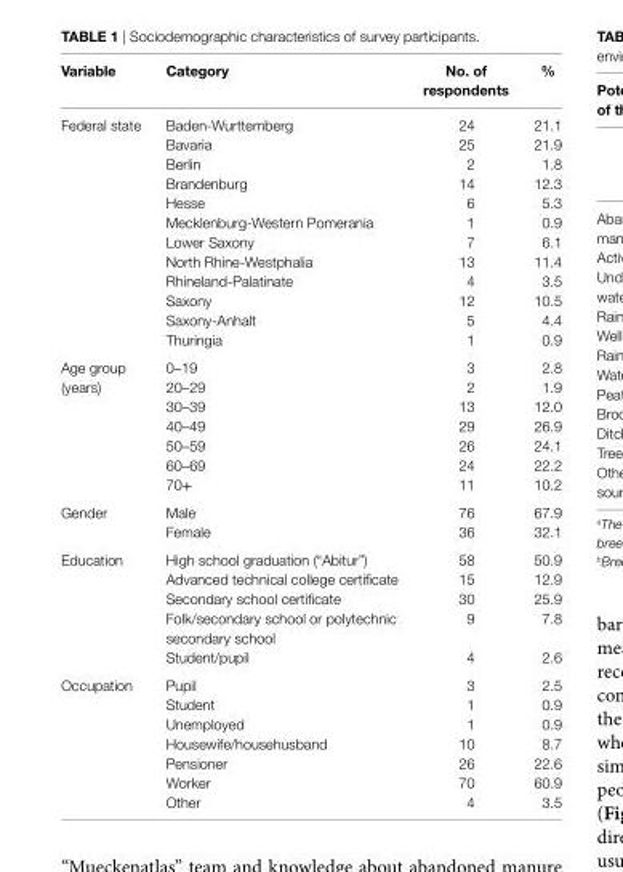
<table><thead><tr><td>Variable</td><td>category</td><td>no. of respondents</td><td>%</td></tr></thead><tbody><tr><td rowspan="12">Federal state</td><td>Baden-Wurttemberg</td><td>24</td><td>21.1</td></tr><tr><td>Bavaria</td><td>25</td><td>21.9</td></tr><tr><td>Berlin</td><td>2</td><td>1.8</td></tr><tr><td>Brandenburg</td><td>14</td><td>12.3</td></tr><tr><td>Hesse</td><td>6</td><td>5.3</td></tr><tr><td>Mecklenburg-Western Pomerania</td><td>1</td><td>0.9</td></tr><tr><td>Lower Saxony</td><td>7</td><td>6.1</td></tr><tr><td>North Rhine-Westphalia</td><td>13</td><td>11.4</td></tr><tr><td>Rhineland-Palatinate</td><td>4</td><td>3.5</td></tr><tr><td>Saxony</td><td>12</td><td>10.5</td></tr><tr><td>Saxony-Anhalt</td><td>5</td><td>4.4</td></tr><tr><td>Thuringia</td><td>1</td><td>0.9</td></tr><tr><td rowspan="7">Age group (years)</td><td>0–19</td><td>3</td><td>2.8</td></tr><tr><td>20–29</td><td>2</td><td>1.9</td></tr><tr><td>30–39</td><td>13</td><td>12.0</td></tr><tr><td>40–49</td><td>29</td><td>26.9</td></tr><tr><td>50–59</td><td>26</td><td>24.1</td></tr><tr><td>60–69</td><td>24</td><td>22.2</td></tr><tr><td>70+</td><td>11</td><td>10.2</td></tr><tr><td rowspan="2">Gender</td><td>Male</td><td>76</td><td>67.9</td></tr><tr><td>Female</td><td>36</td><td>32.1</td></tr><tr><td rowspan="5">Education</td><td>High school graduation (“Abitur”)</td><td>58</td><td>50.9</td></tr><tr><td>Advanced technical college certificate</td><td>15</td><td>12.9</td></tr><tr><td>Secondary school certificate</td><td>30</td><td>25.9</td></tr><tr><td>Folk/secondary school or polytechnic secondary school</td><td>9</td><td>7.8</td></tr><tr><td>Student/pupil</td><td>4</td><td>2.6</td></tr><tr><td rowspan="7">Occupation</td><td>Pupil</td><td>3</td><td>2.5</td></tr><tr><td>Student</td><td>1</td><td>0.9</td></tr><tr><td>Unemployed</td><td>1</td><td>0.9</td></tr><tr><td>Housewife/househusband</td><td>10</td><td>8.7</td></tr><tr><td>Pensioner</td><td>26</td><td>22.6</td></tr><tr><td>Worker</td><td>70</td><td>60.9</td></tr><tr><td>Other</td><td>4</td><td>3.5</td></tr></tbody></table>